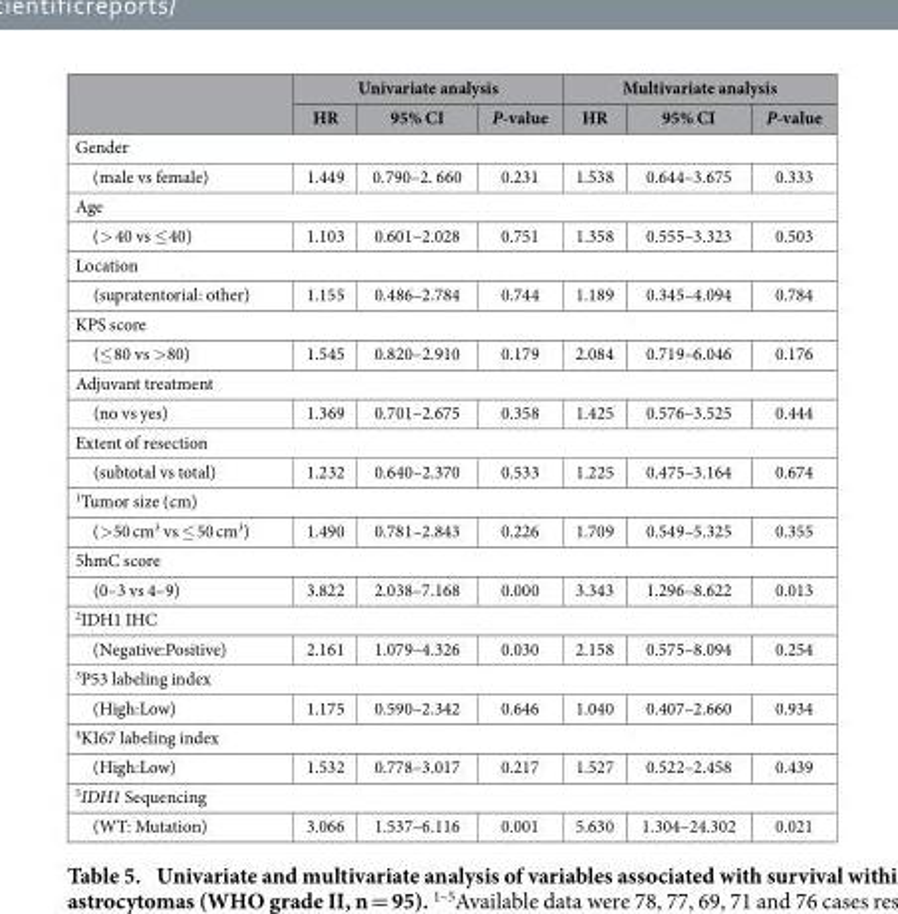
<table><thead><tr><td rowspan="2"></td><td colspan="3">Univariate analysis</td><td colspan="3">Multivariate analysis</td></tr><tr><td>HR</td><td>95% CI</td><td>P-value</td><td>HR</td><td>95% CI</td><td>P-value</td></tr></thead><tbody><tr><td colspan="7">Gender</td></tr><tr><td>(male vs female)</td><td>1.449</td><td>0.790–2. 660</td><td>0.231</td><td>1.538</td><td>0.644–3.675</td><td>0.333</td></tr><tr><td colspan="7">Age</td></tr><tr><td>(&gt; 40 vs ≤ 40)</td><td>1.103</td><td>0.601–2.028</td><td>0.751</td><td>1.358</td><td>0.555–3.323</td><td>0.503</td></tr><tr><td colspan="7">Location</td></tr><tr><td>(supratentorial: other)</td><td>1.155</td><td>0.486–2.784</td><td>0.744</td><td>1.189</td><td>0.345–4.094</td><td>0.784</td></tr><tr><td colspan="7">KPS score</td></tr><tr><td>(≤ 80 vs &gt;80)</td><td>1.545</td><td>0.820–2.910</td><td>0.179</td><td>2.084</td><td>0.719–6.046</td><td>0.176</td></tr><tr><td colspan="7">Adjuvant treatment</td></tr><tr><td>(no vs yes)</td><td>1.369</td><td>0.701–2.675</td><td>0.358</td><td>1.425</td><td>0.576–3.525</td><td>0.444</td></tr><tr><td colspan="7">Extent of resection</td></tr><tr><td>(subtotal vs total)</td><td>1.232</td><td>0.640–2.370</td><td>0.533</td><td>1.225</td><td>0.475–3.164</td><td>0.674</td></tr><tr><td colspan="7"><sup>1</sup>Tumor size (cm)</td></tr><tr><td>(&gt;50 cm<sup>3</sup> vs ≤ 50 cm<sup>3</sup>)</td><td>1.490</td><td>0.781–2.843</td><td>0.226</td><td>1.709</td><td>0.549–5.325</td><td>0.355</td></tr><tr><td colspan="7">5hmC score</td></tr><tr><td>(0–3 vs 4–9)</td><td>3.822</td><td>2.038–7.168</td><td>0.000</td><td>3.343</td><td>1.296–8.622</td><td>0.013</td></tr><tr><td colspan="7"><sup>2</sup>IDH1 IHC</td></tr><tr><td>(Negative:Positive)</td><td>2.161</td><td>1.079–4.326</td><td>0.030</td><td>2.158</td><td>0.575–8.094</td><td>0.254</td></tr><tr><td colspan="7"><sup>3</sup>P53 labeling index</td></tr><tr><td>(High:Low)</td><td>1.175</td><td>0.590–2.342</td><td>0.646</td><td>1.040</td><td>0.407–2.660</td><td>0.934</td></tr><tr><td colspan="7"><sup>4</sup>KI67 labeling index</td></tr><tr><td>(High:Low)</td><td>1.532</td><td>0.778–3.017</td><td>0.217</td><td>1.527</td><td>0.522–2.458</td><td>0.439</td></tr><tr><td colspan="7"><sup>5</sup>IDH1 Sequencing</td></tr><tr><td>(WT: Mutation)</td><td>3.066</td><td>1.537–6.116</td><td>0.001</td><td>5.630</td><td>1.304–24.302</td><td>0.021</td></tr></tbody></table>